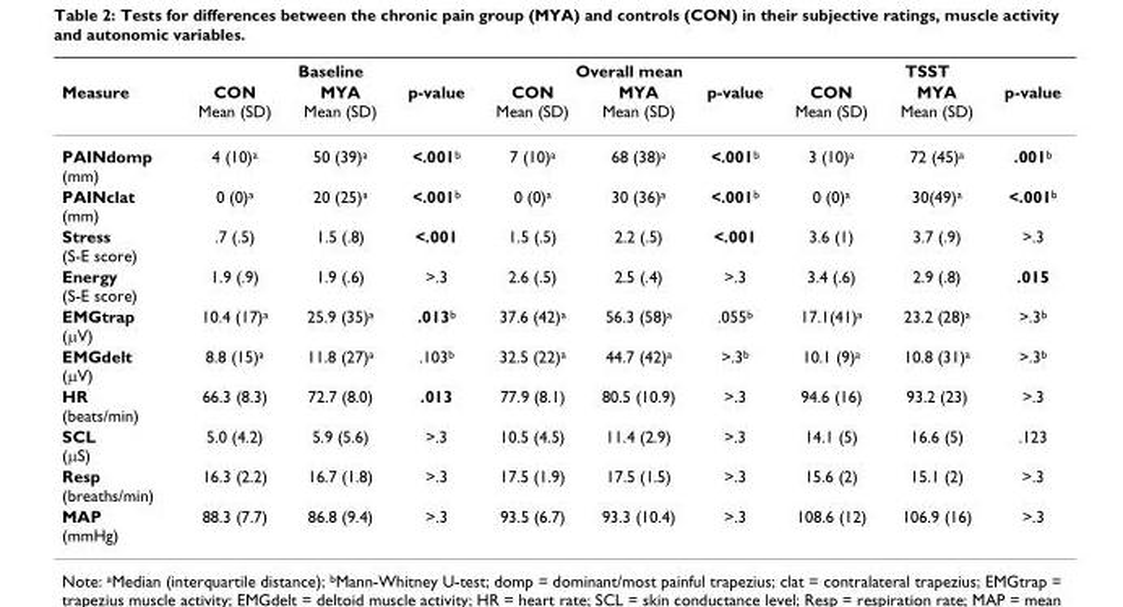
<table><thead><tr><td rowspan="2">Measure</td><td colspan="3">Baseline</td><td colspan="3">Overall mean</td><td colspan="3">TSST</td></tr><tr><td>CON Mean (SD)</td><td>MYA Mean (SD)</td><td>p-value</td><td>CON Mean (SD)</td><td>MYA Mean (SD)</td><td>p-value</td><td>CON Mean (SD)</td><td>MYA Mean (SD)</td><td>p-value</td></tr></thead><tbody><tr><td>PAINdomp (mm)</td><td>4 (10)<sup>a</sup></td><td>50 (39)<sup>a</sup></td><td>&lt;.001<sup>b</sup></td><td>7 (10)<sup>a</sup></td><td>68 (38)<sup>a</sup></td><td>&lt;.001<sup>b</sup></td><td>3 (10)<sup>a</sup></td><td>72 (45)<sup>a</sup></td><td>.001<sup>b</sup></td></tr><tr><td>PAINclat (mm)</td><td>0 (0)<sup>a</sup></td><td>20 (25)<sup>a</sup></td><td>&lt;.001<sup>b</sup></td><td>0 (0)<sup>a</sup></td><td>30 (36)<sup>a</sup></td><td>&lt;.001<sup>b</sup></td><td>0 (0)<sup>a</sup></td><td>30(49)<sup>a</sup></td><td>&lt;.001<sup>b</sup></td></tr><tr><td>Stress (S-E score)</td><td>.7 (.5)</td><td>1.5 (.8)</td><td>&lt;.001</td><td>1.5 (.5)</td><td>2.2 (.5)</td><td>&lt;.001</td><td>3.6 (1)</td><td>3.7 (.9)</td><td>&gt;.3</td></tr><tr><td>Energy (S-E score)</td><td>1.9 (.9)</td><td>1.9 (.6)</td><td>&gt;.3</td><td>2.6 (.5)</td><td>2.5 (.4)</td><td>&gt;.3</td><td>3.4 (.6)</td><td>2.9 (.8)</td><td>.015</td></tr><tr><td>EMGtrap (μV)</td><td>10.4 (17)<sup>a</sup></td><td>25.9 (35)<sup>a</sup></td><td>.013<sup>b</sup></td><td>37.6 (42)<sup>a</sup></td><td>56.3 (58)<sup>a</sup></td><td>.055<sup>b</sup></td><td>17.1(41)<sup>a</sup></td><td>23.2 (28)<sup>a</sup></td><td>&gt;.3<sup>b</sup></td></tr><tr><td>EMGdelt (μV)</td><td>8.8 (15)<sup>a</sup></td><td>11.8 (27)<sup>a</sup></td><td>.103<sup>b</sup></td><td>32.5 (22)<sup>a</sup></td><td>44.7 (42)<sup>a</sup></td><td>&gt;.3<sup>b</sup></td><td>10.1 (9)<sup>a</sup></td><td>10.8 (31)<sup>a</sup></td><td>&gt;.3<sup>b</sup></td></tr><tr><td>HR (beats/min)</td><td>66.3 (8.3)</td><td>72.7 (8.0)</td><td>.013</td><td>77.9 (8.1)</td><td>80.5 (10.9)</td><td>&gt;.3</td><td>94.6 (16)</td><td>93.2 (23)</td><td>&gt;.3</td></tr><tr><td>SCL (μS)</td><td>5.0 (4.2)</td><td>5.9 (5.6)</td><td>&gt;.3</td><td>10.5 (4.5)</td><td>11.4 (2.9)</td><td>&gt;.3</td><td>14.1 (5)</td><td>16.6 (5)</td><td>.123</td></tr><tr><td>Resp (breaths/min)</td><td>16.3 (2.2)</td><td>16.7 (1.8)</td><td>&gt;.3</td><td>17.5 (1.9)</td><td>17.5 (1.5)</td><td>&gt;.3</td><td>15.6 (2)</td><td>15.1 (2)</td><td>&gt;.3</td></tr><tr><td>MAP (mmHg)</td><td>88.3 (7.7)</td><td>86.8 (9.4)</td><td>&gt;.3</td><td>93.5 (6.7)</td><td>93.3 (10.4)</td><td>&gt;.3</td><td>108.6 (12)</td><td>106.9 (16)</td><td>&gt;.3</td></tr></tbody></table>